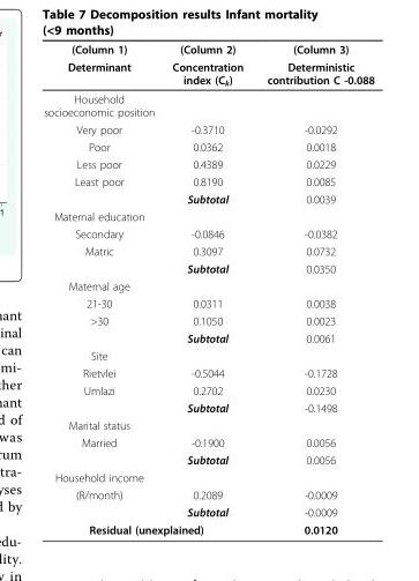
<table><thead><tr><td rowspan="2">(Column 1) Determinant</td><td rowspan="2">(Column 2) Concentration index (C<sub>k</sub>)</td><td rowspan="2">(Column 3) Deterministic contribution C -0.088</td></tr><tr></tr></thead><tbody><tr><td colspan="3">Household socioeconomic position</td></tr><tr><td>Very poor</td><td>-0.3710</td><td>-0.0292</td></tr><tr><td>Poor</td><td>0.0362</td><td>0.0018</td></tr><tr><td>Less poor</td><td>0.4389</td><td>0.0229</td></tr><tr><td rowspan="2">Least poor</td><td>0.8190</td><td>0.0085</td></tr><tr><td>Subtotal</td><td>0.0039</td></tr><tr><td colspan="3">Maternal education</td></tr><tr><td>Secondary</td><td>-0.0846</td><td>-0.0382</td></tr><tr><td rowspan="2">Matric</td><td>0.3097</td><td>0.0732</td></tr><tr><td>Subtotal</td><td>0.0350</td></tr><tr><td colspan="3">Maternal age</td></tr><tr><td>21-30</td><td>0.0311</td><td>0.0038</td></tr><tr><td rowspan="2">&gt;30</td><td>0.1050</td><td>0.0023</td></tr><tr><td>Subtotal</td><td>0.0061</td></tr><tr><td colspan="3">Site</td></tr><tr><td>Rietvlei</td><td>-0.5044</td><td>-0.1728</td></tr><tr><td rowspan="2">Umlazi</td><td>0.2702</td><td>0.0230</td></tr><tr><td>Subtotal</td><td>-0.1498</td></tr><tr><td colspan="3">Marital status</td></tr><tr><td rowspan="2">Married</td><td>-0.1900</td><td>0.0056</td></tr><tr><td>Subtotal</td><td>0.0056</td></tr><tr><td colspan="3">Household income</td></tr><tr><td rowspan="2">(R/month)</td><td>0.2089</td><td>-0.0009</td></tr><tr><td>Subtotal</td><td>-0.0009</td></tr><tr><td colspan="2">Residual (unexplained)</td><td>0.0120</td></tr></tbody></table>